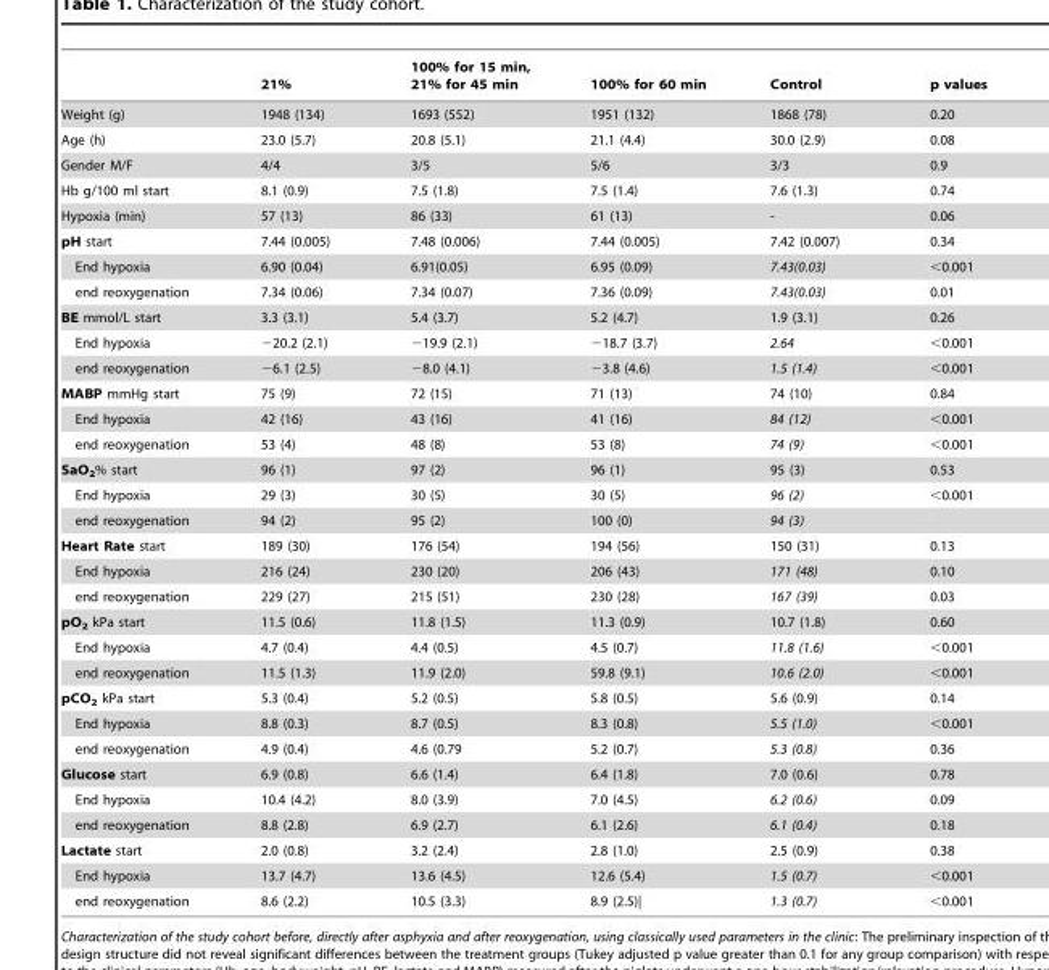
<table><thead><tr><td></td><td>21%</td><td>100% for 15 min, 21% for 45 min</td><td>100% for 60 min</td><td>Control</td><td>p values</td></tr></thead><tbody><tr><td>Weight (g)</td><td>1948 (134)</td><td>1693 (552)</td><td>1951 (132)</td><td>1868 (78)</td><td>0.20</td></tr><tr><td>Age (h)</td><td>23.0 (5.7)</td><td>20.8 (5.1)</td><td>21.1 (4.4)</td><td>30.0 (2.9)</td><td>0.08</td></tr><tr><td>Gender M/F</td><td>4/4</td><td>3/5</td><td>5/6</td><td>3/3</td><td>0.9</td></tr><tr><td>Hb g/100 ml start</td><td>8.1 (0.9)</td><td>7.5 (1.8)</td><td>7.5 (1.4)</td><td>7.6 (1.3)</td><td>0.74</td></tr><tr><td>Hypoxia (min)</td><td>57 (13)</td><td>86 (33)</td><td>61 (13)</td><td>-</td><td>0.06</td></tr><tr><td>pH start</td><td>7.44 (0.005)</td><td>7.48 (0.006)</td><td>7.44 (0.005)</td><td>7.42 (0.007)</td><td>0.34</td></tr><tr><td>End hypoxia</td><td>6.90 (0.04)</td><td>6.91(0.05)</td><td>6.95 (0.09)</td><td>7.43(0.03)</td><td>&lt;0.001</td></tr><tr><td>end reoxygenation</td><td>7.34 (0.06)</td><td>7.34 (0.07)</td><td>7.36 (0.09)</td><td>7.43(0.03)</td><td>0.01</td></tr><tr><td>BE mmol/L start</td><td>3.3 (3.1)</td><td>5.4 (3.7)</td><td>5.2 (4.7)</td><td>1.9 (3.1)</td><td>0.26</td></tr><tr><td>End hypoxia</td><td>−20.2 (2.1)</td><td>−19.9 (2.1)</td><td>−18.7 (3.7)</td><td>2.64</td><td>&lt;0.001</td></tr><tr><td>end reoxygenation</td><td>−6.1 (2.5)</td><td>−8.0 (4.1)</td><td>−3.8 (4.6)</td><td>1.5 (1.4)</td><td>&lt;0.001</td></tr><tr><td>MABP mmHg start</td><td>75 (9)</td><td>72 (15)</td><td>71 (13)</td><td>74 (10)</td><td>0.84</td></tr><tr><td>End hypoxia</td><td>42 (16)</td><td>43 (16)</td><td>41 (16)</td><td>84 (12)</td><td>&lt;0.001</td></tr><tr><td>end reoxygenation</td><td>53 (4)</td><td>48 (8)</td><td>53 (8)</td><td>74 (9)</td><td>&lt;0.001</td></tr><tr><td>SaO<sub>2</sub>% start</td><td>96 (1)</td><td>97 (2)</td><td>96 (1)</td><td>95 (3)</td><td>0.53</td></tr><tr><td>End hypoxia</td><td>29 (3)</td><td>30 (5)</td><td>30 (5)</td><td>96 (2)</td><td>&lt;0.001</td></tr><tr><td>end reoxygenation</td><td>94 (2)</td><td>95 (2)</td><td>100 (0)</td><td>94 (3)</td><td></td></tr><tr><td>Heart Rate start</td><td>189 (30)</td><td>176 (54)</td><td>194 (56)</td><td>150 (31)</td><td>0.13</td></tr><tr><td>End hypoxia</td><td>216 (24)</td><td>230 (20)</td><td>206 (43)</td><td>171 (48)</td><td>0.10</td></tr><tr><td>end reoxygenation</td><td>229 (27)</td><td>215 (51)</td><td>230 (28)</td><td>167 (39)</td><td>0.03</td></tr><tr><td>pO<sub>2</sub> kPa start</td><td>11.5 (0.6)</td><td>11.8 (1.5)</td><td>11.3 (0.9)</td><td>10.7 (1.8)</td><td>0.60</td></tr><tr><td>End hypoxia</td><td>4.7 (0.4)</td><td>4.4 (0.5)</td><td>4.5 (0.7)</td><td>11.8 (1.6)</td><td>&lt;0.001</td></tr><tr><td>end reoxygenation</td><td>11.5 (1.3)</td><td>11.9 (2.0)</td><td>59.8 (9.1)</td><td>10.6 (2.0)</td><td>&lt;0.001</td></tr><tr><td>pCO<sub>2</sub> kPa start</td><td>5.3 (0.4)</td><td>5.2 (0.5)</td><td>5.8 (0.5)</td><td>5.6 (0.9)</td><td>0.14</td></tr><tr><td>End hypoxia</td><td>8.8 (0.3)</td><td>8.7 (0.5)</td><td>8.3 (0.8)</td><td>5.5 (1.0)</td><td>&lt;0.001</td></tr><tr><td>end reoxygenation</td><td>4.9 (0.4)</td><td>4.6 (0.79</td><td>5.2 (0.7)</td><td>5.3 (0.8)</td><td>0.36</td></tr><tr><td>Glucose start</td><td>6.9 (0.8)</td><td>6.6 (1.4)</td><td>6.4 (1.8)</td><td>7.0 (0.6)</td><td>0.78</td></tr><tr><td>End hypoxia</td><td>10.4 (4.2)</td><td>8.0 (3.9)</td><td>7.0 (4.5)</td><td>6.2 (0.6)</td><td>0.09</td></tr><tr><td>end reoxygenation</td><td>8.8 (2.8)</td><td>6.9 (2.7)</td><td>6.1 (2.6)</td><td>6.1 (0.4)</td><td>0.18</td></tr><tr><td>Lactate start</td><td>2.0 (0.8)</td><td>3.2 (2.4)</td><td>2.8 (1.0)</td><td>2.5 (0.9)</td><td>0.38</td></tr><tr><td>End hypoxia</td><td>13.7 (4.7)</td><td>13.6 (4.5)</td><td>12.6 (5.4)</td><td>1.5 (0.7)</td><td>&lt;0.001</td></tr><tr><td>end reoxygenation</td><td>8.6 (2.2)</td><td>10.5 (3.3)</td><td>8.9 (2.5)|</td><td>1.3 (0.7)</td><td>&lt;0.001</td></tr></tbody></table>